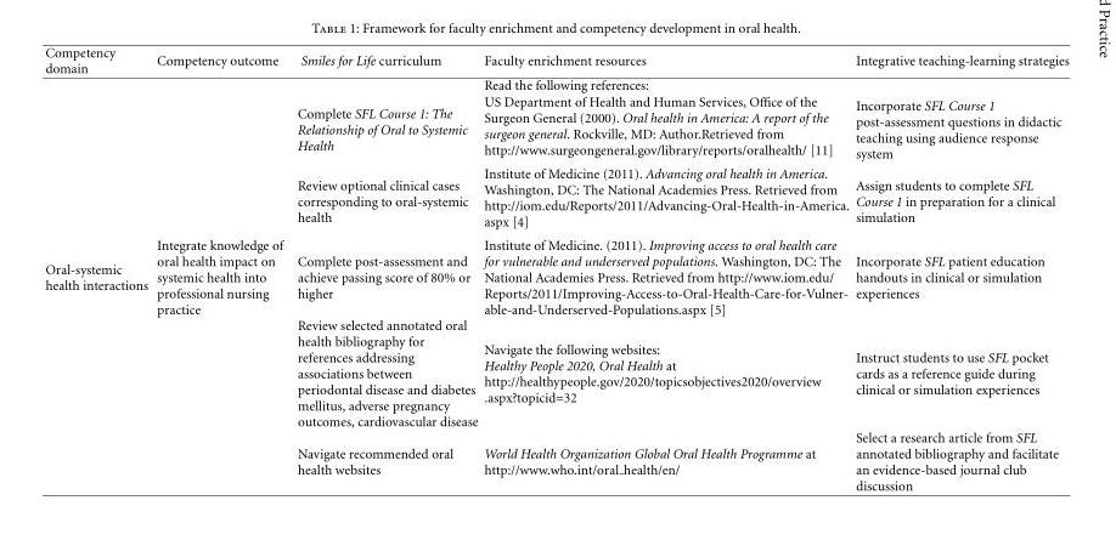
<table><thead><tr><td>Competency domain</td><td>Competency outcome</td><td>Smiles for Life curriculum</td><td>Faculty enrichment resources</td><td>Integrative teaching-learning strategies</td></tr></thead><tbody><tr><td></td><td></td><td></td><td>Read the following references:</td><td></td></tr><tr><td></td><td></td><td>Complete SFL Course 1: The Relationship of Oral to Systemic Health</td><td>US Department of Health and Human Services, Office of the Surgeon General (2000). Oral health in America: A report of the surgeon general. Rockville, MD: Author.Retrieved from http://www.surgeongeneral.gov/library/reports/oralhealth/ [11]</td><td>Incorporate SFL Course 1 post-assessment questions in didactic teaching using audience response system</td></tr><tr><td></td><td></td><td>Review optional clinical cases corresponding to oral-systemic health</td><td>Institute of Medicine (2011). Advancing oral health in America. Washington, DC: The National Academies Press. Retrieved from http://iom.edu/Reports/2011/Advancing-Oral-Health-in-America. aspx [4]</td><td>Assign students to complete SFL Course 1 in preparation for a clinical simulation</td></tr><tr><td rowspan="3">Oral-systemic health interactions</td><td>Integrate knowledge of oral health impact on systemic health into professional nursing practice</td><td>Complete post-assessment and achieve passing score of 80% or higher</td><td>Institute of Medicine. (2011). Improving access to oral health care for vulnerable and underserved populations. Washington, DC: The National Academies Press. Retrieved from http://www.iom.edu/ Reports/2011/Improving-Access-to-Oral-Health-Care-for-Vulner- able-and-Underserved-Populations.aspx [5]</td><td>Incorporate SFL patient education handouts in clinical or simulation experiences</td></tr><tr><td></td><td>Review selected annotated oral health bibliography for references addressing associations between periodontal disease and diabetes mellitus, adverse pregnancy outcomes, cardiovascular disease</td><td>Navigate the following websites: Healthy People 2020, Oral Health at http://healthypeople.gov/2020/topicsobjectives2020/overview .aspx?topicid=32</td><td>Instruct students to use SFL pocket cards as a reference guide during clinical or simulation experiences</td></tr><tr><td></td><td>Navigate recommended oral health websites</td><td>World Health Organization Global Oral Health Programme at http://www.who.int/oral health/en/</td><td>Select a research article from SFL annotated bibliography and facilitate an evidence-based journal club discussion</td></tr></tbody></table>